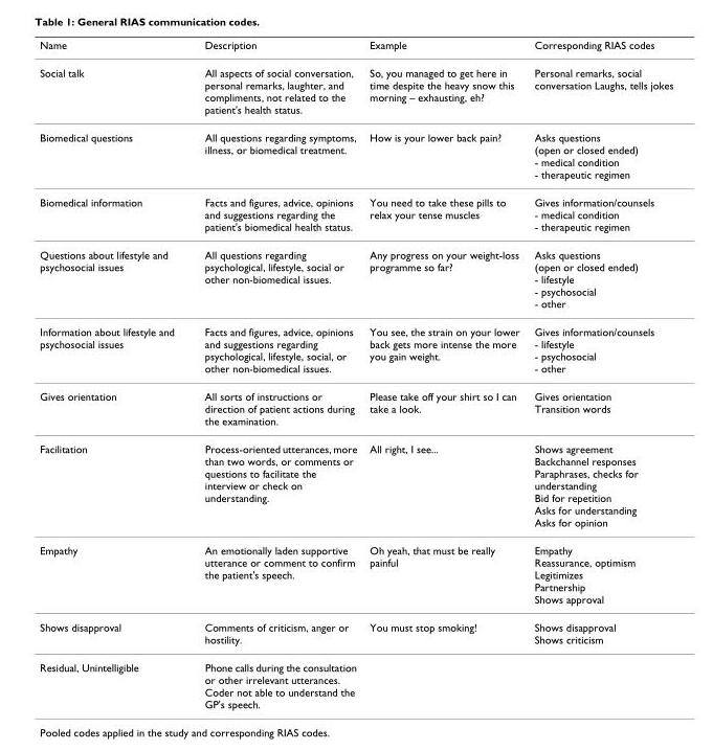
<table><thead><tr><td>Name</td><td>Description</td><td>Example</td><td>Corresponding RIAS codes</td></tr></thead><tbody><tr><td>Social talk</td><td>All aspects of social conversation, personal remarks, laughter, and compliments, not related to the patient&#x27;s health status.</td><td>So, you managed to get here in time despite the heavy snow this morning – exhausting, eh?</td><td>Personal remarks, social conversation Laughs, tells jokes</td></tr><tr><td>Biomedical questions</td><td>All questions regarding symptoms, illness, or biomedical treatment.</td><td>How is your lower back pain?</td><td>Asks questions (open or closed ended) - medical condition - therapeutic regimen</td></tr><tr><td>Biomedical information</td><td>Facts and figures, advice, opinions and suggestions regarding the patient&#x27;s biomedical health status.</td><td>You need to take these pills to relax your tense muscles</td><td>Gives information/counsels - medical condition - therapeutic regimen</td></tr><tr><td>Questions about lifestyle and psychosocial issues</td><td>All questions regarding psychological, lifestyle, social or other non-biomedical issues.</td><td>Any progress on your weight-loss programme so far?</td><td>Asks questions (open or closed ended) - lifestyle - psychosocial - other</td></tr><tr><td>Information about lifestyle and psychosocial issues</td><td>Facts and figures, advice, opinions and suggestions regarding psychological, lifestyle, social, or other non-biomedical issues.</td><td>You see, the strain on your lower back gets more intense the more you gain weight.</td><td>Gives information/counsels - lifestyle - psychosocial - other</td></tr><tr><td>Gives orientation</td><td>All sorts of instructions or direction of patient actions during the examination.</td><td>Please take off your shirt so I can take a look.</td><td>Gives orientation Transition words</td></tr><tr><td>Facilitation</td><td>Process-oriented utterances, more than two words, or comments or questions to facilitate the interview or check on understanding.</td><td>All right, I see...</td><td>Shows agreement Backchannel responses Paraphrases, checks for understanding Bid for repetition Asks for understanding Asks for opinion</td></tr><tr><td>Empathy</td><td>An emotionally laden supportive utterance or comment to confirm the patient&#x27;s speech.</td><td>Oh yeah, that must be really painful</td><td>Empathy Reassurance, optimism Legitimizes Partnership Shows approval</td></tr><tr><td>Shows disapproval</td><td>Comments of criticism, anger or hostility.</td><td>You must stop smoking!</td><td>Shows disapproval Shows criticism</td></tr><tr><td>Residual, Unintelligible</td><td>Phone calls during the consultation or other irrelevant utterances. Coder not able to understand the GP&#x27;s speech.</td><td></td><td></td></tr></tbody></table>